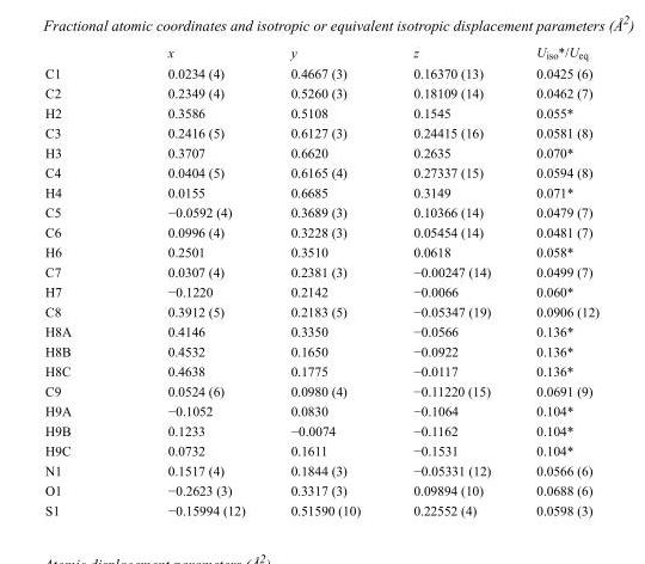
<table><thead><tr><td></td><td>x</td><td>y</td><td>z</td><td>U<sub>iso</sub>*/U<sub>eq</sub></td></tr></thead><tbody><tr><td>C1</td><td>0.0234 (4)</td><td>0.4667 (3)</td><td>0.16370 (13)</td><td>0.0425 (6)</td></tr><tr><td>C2</td><td>0.2349 (4)</td><td>0.5260 (3)</td><td>0.18109 (14)</td><td>0.0462 (7)</td></tr><tr><td>H2</td><td>0.3586</td><td>0.5108</td><td>0.1545</td><td>0.055*</td></tr><tr><td>C3</td><td>0.2416 (5)</td><td>0.6127 (3)</td><td>0.24415 (16)</td><td>0.0581 (8)</td></tr><tr><td>H3</td><td>0.3707</td><td>0.6620</td><td>0.2635</td><td>0.070*</td></tr><tr><td>C4</td><td>0.0404 (5)</td><td>0.6165 (4)</td><td>0.27337 (15)</td><td>0.0594 (8)</td></tr><tr><td>H4</td><td>0.0155</td><td>0.6685</td><td>0.3149</td><td>0.071*</td></tr><tr><td>C5</td><td>−0.0592 (4)</td><td>0.3689 (3)</td><td>0.10366 (14)</td><td>0.0479 (7)</td></tr><tr><td>C6</td><td>0.0996 (4)</td><td>0.3228 (3)</td><td>0.05454 (14)</td><td>0.0481 (7)</td></tr><tr><td>H6</td><td>0.2501</td><td>0.3510</td><td>0.0618</td><td>0.058*</td></tr><tr><td>C7</td><td>0.0307 (4)</td><td>0.2381 (3)</td><td>−0.00247 (14)</td><td>0.0499 (7)</td></tr><tr><td>H7</td><td>−0.1220</td><td>0.2142</td><td>−0.0066</td><td>0.060*</td></tr><tr><td>C8</td><td>0.3912 (5)</td><td>0.2183 (5)</td><td>−0.05347 (19)</td><td>0.0906 (12)</td></tr><tr><td>H8A</td><td>0.4146</td><td>0.3350</td><td>−0.0566</td><td>0.136*</td></tr><tr><td>H8B</td><td>0.4532</td><td>0.1650</td><td>−0.0922</td><td>0.136*</td></tr><tr><td>H8C</td><td>0.4638</td><td>0.1775</td><td>−0.0117</td><td>0.136*</td></tr><tr><td>C9</td><td>0.0524 (6)</td><td>0.0980 (4)</td><td>−0.11220 (15)</td><td>0.0691 (9)</td></tr><tr><td>H9A</td><td>−0.1052</td><td>0.0830</td><td>−0.1064</td><td>0.104*</td></tr><tr><td>H9B</td><td>0.1233</td><td>−0.0074</td><td>−0.1162</td><td>0.104*</td></tr><tr><td>H9C</td><td>0.0732</td><td>0.1611</td><td>−0.1531</td><td>0.104*</td></tr><tr><td>N1</td><td>0.1517 (4)</td><td>0.1844 (3)</td><td>−0.05331 (12)</td><td>0.0566 (6)</td></tr><tr><td>O1</td><td>−0.2623 (3)</td><td>0.3317 (3)</td><td>0.09894 (10)</td><td>0.0688 (6)</td></tr><tr><td>S1</td><td>−0.15994 (12)</td><td>0.51590 (10)</td><td>0.22552 (4)</td><td>0.0598 (3)</td></tr></tbody></table>